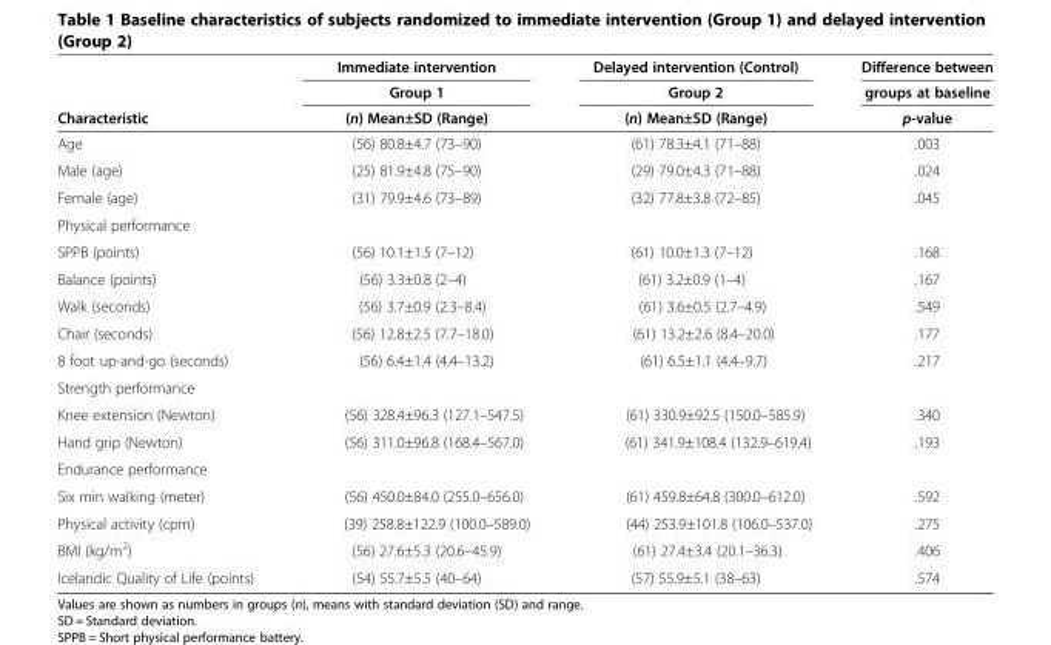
<table><thead><tr><td rowspan="3">Characteristic</td><td rowspan="3">Immediate intervention Group 1 (n) Mean±SD (Range)</td><td rowspan="3">Delayed intervention (Control) Group 2 (n) Mean±SD (Range)</td><td rowspan="3">Difference between groups at baseline p-value</td></tr><tr></tr><tr></tr></thead><tbody><tr><td>Age</td><td>(56) 80.8±4.7 (73–90)</td><td>(61) 78.3±4.1 (71–88)</td><td>.003</td></tr><tr><td>Male (age)</td><td>(25) 81.9±4.8 (75–90)</td><td>(29) 79.0±4.3 (71–88)</td><td>.024</td></tr><tr><td>Female (age)</td><td>(31) 79.9±4.6 (73–89)</td><td>(32) 77.8±3.8 (72–85)</td><td>.045</td></tr><tr><td colspan="4">Physical performance</td></tr><tr><td>SPPB (points)</td><td>(56) 10.1±1.5 (7–12)</td><td>(61) 10.0±1.3 (7–12)</td><td>.168</td></tr><tr><td>Balance (points)</td><td>(56) 3.3±0.8 (2–4)</td><td>(61) 3.2±0.9 (1–4)</td><td>.167</td></tr><tr><td>Walk (seconds)</td><td>(56) 3.7±0.9 (2.3–8.4)</td><td>(61) 3.6±0.5 (2.7–4.9)</td><td>.549</td></tr><tr><td>Chair (seconds)</td><td>(56) 12.8±2.5 (7.7–18.0)</td><td>(61) 13.2±2.6 (8.4–20.0)</td><td>.177</td></tr><tr><td>8 foot up-and-go (seconds)</td><td>(56) 6.4±1.4 (4.4–13.2)</td><td>(61) 6.5±1.1 (4.4–9.7)</td><td>.217</td></tr><tr><td colspan="4">Strength performance</td></tr><tr><td>Knee extension (Newton)</td><td>(56) 328.4±96.3 (127.1–547.5)</td><td>(61) 330.9±92.5 (150.0–585.9)</td><td>.340</td></tr><tr><td>Hand grip (Newton)</td><td>(56) 311.0±96.8 (168.4–567.0)</td><td>(61) 341.9±108.4 (132.9–619.4)</td><td>.193</td></tr><tr><td colspan="4">Endurance performance</td></tr><tr><td>Six min walking (meter)</td><td>(56) 450.0±84.0 (255.0–656.0)</td><td>(61) 459.8±64.8 (300.0–612.0)</td><td>.592</td></tr><tr><td>Physical activity (cpm)</td><td>(39) 258.8±122.9 (100.0–589.0)</td><td>(44) 253.9±101.8 (106.0–537.0)</td><td>.275</td></tr><tr><td>BMI (kg/m<sup>2</sup>)</td><td>(56) 27.6±5.3 (20.6–45.9)</td><td>(61) 27.4±3.4 (20.1–36.3)</td><td>.406</td></tr><tr><td>Icelandic Quality of Life (points)</td><td>(54) 55.7±5.5 (40–64)</td><td>(57) 55.9±5.1 (38–63)</td><td>.574</td></tr></tbody></table>